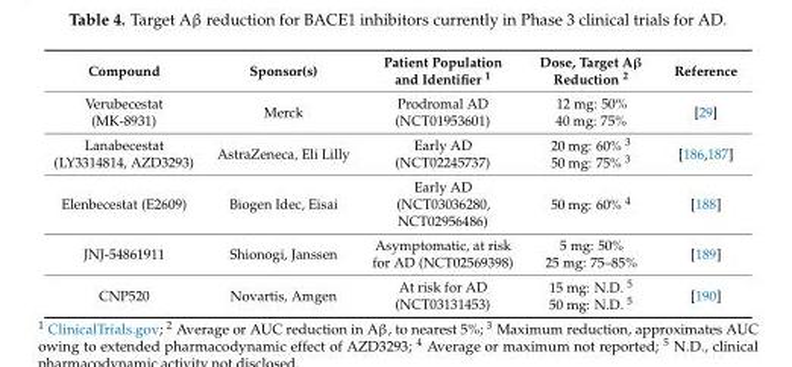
<table><thead><tr><td>Compound</td><td>Sponsor(s)</td><td>Patient Population and Identifier <sup>1</sup></td><td>Dose, Target Aβ Reduction <sup>2</sup></td><td>Reference</td></tr></thead><tbody><tr><td>Verubecestat (MK-8931)</td><td>Merck</td><td>Prodromal AD (NCT01953601)</td><td>12 mg: 50% 40 mg: 75%</td><td>[29]</td></tr><tr><td>Lanabecestat (LY3314814, AZD3293)</td><td>AstraZeneca, Eli Lilly</td><td>Early AD (NCT02245737)</td><td>20 mg: 60% <sup>3</sup> 50 mg: 75% <sup>3</sup></td><td>[186,187]</td></tr><tr><td>Elenbecestat (E2609)</td><td>Biogen Idec, Eisai</td><td>Early AD (NCT03036280, NCT02956486)</td><td>50 mg: 60% <sup>4</sup></td><td>[188]</td></tr><tr><td>JNJ-54861911</td><td>Shionogi, Janssen</td><td>Asymptomatic, at risk for AD (NCT02569398)</td><td>5 mg: 50% 25 mg: 75–85%</td><td>[189]</td></tr><tr><td>CNP520</td><td>Novartis, Amgen</td><td>At risk for AD (NCT03131453)</td><td>15 mg: N.D. <sup>5</sup> 50 mg: N.D. <sup>5</sup></td><td>[190]</td></tr></tbody></table>